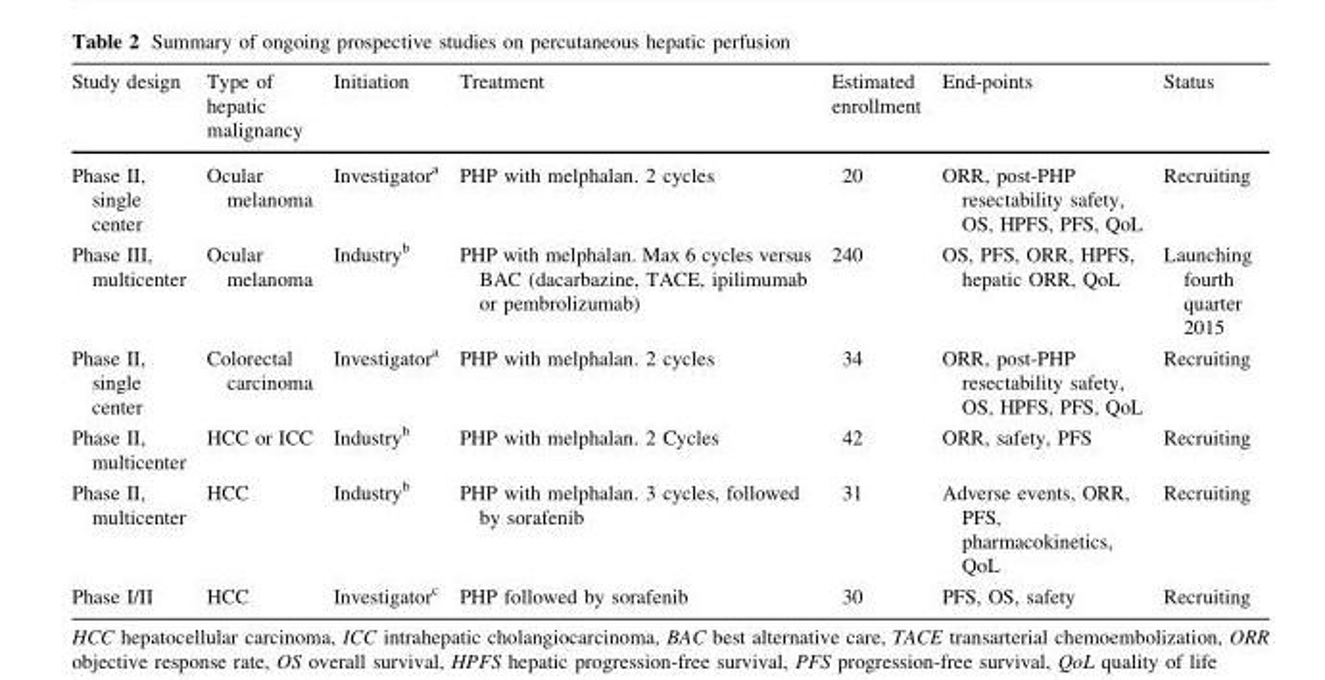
<table><thead><tr><td>Study design</td><td>Type of hepatic malignancy</td><td>Initiation</td><td>Treatment</td><td>Estimated enrollment</td><td>End-points</td><td>Status</td></tr></thead><tbody><tr><td>Phase II, single center</td><td>Ocular melanoma</td><td>Investigator<sup>a</sup></td><td>PHP with melphalan. 2 cycles</td><td>20</td><td>ORR, post-PHP resectability safety, OS, HPFS, PFS, QoL</td><td>Recruiting</td></tr><tr><td>Phase III, multicenter</td><td>Ocular melanoma</td><td>Industry<sup>b</sup></td><td>PHP with melphalan. Max 6 cycles versus BAC (dacarbazine, TACE, ipilimumab or pembrolizumab)</td><td>240</td><td>OS, PFS, ORR, HPFS, hepatic ORR, QoL</td><td>Launching fourth quarter 2015</td></tr><tr><td>Phase II, single center</td><td>Colorectal carcinoma</td><td>Investigator<sup>a</sup></td><td>PHP with melphalan. 2 cycles</td><td>34</td><td>ORR, post-PHP resectability safety, OS, HPFS, PFS, QoL</td><td>Recruiting</td></tr><tr><td>Phase II, multicenter</td><td>HCC or ICC</td><td>Industry<sup>b</sup></td><td>PHP with melphalan. 2 Cycles</td><td>42</td><td>ORR, safety, PFS</td><td>Recruiting</td></tr><tr><td>Phase II, multicenter</td><td>HCC</td><td>Industry<sup>b</sup></td><td>PHP with melphalan. 3 cycles, followed by sorafenib</td><td>31</td><td>Adverse events, ORR, PFS, pharmacokinetics, QoL</td><td>Recruiting</td></tr><tr><td>Phase I/II</td><td>HCC</td><td>Investigator<sup>c</sup></td><td>PHP followed by sorafenib</td><td>30</td><td>PFS, OS, safety</td><td>Recruiting</td></tr></tbody></table>